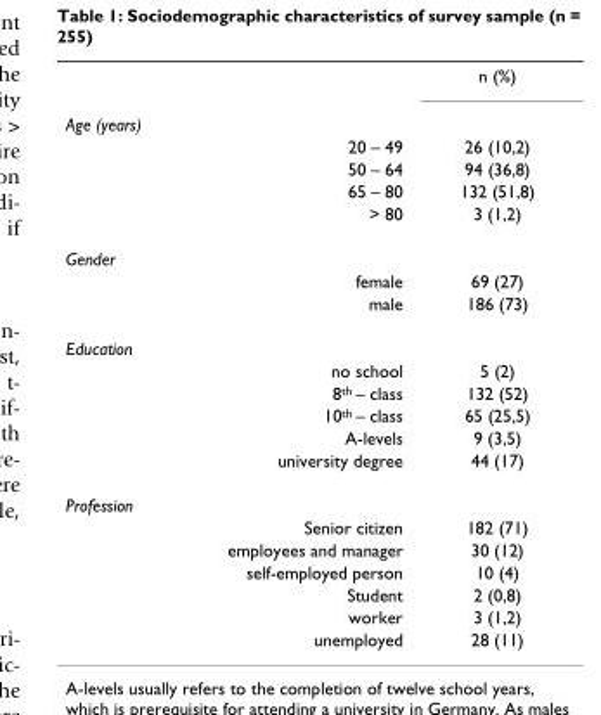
<table><thead><tr><td></td><td>n (%)</td></tr></thead><tbody><tr><td colspan="2">Age (years)</td></tr><tr><td>20 – 49</td><td>26 (10,2)</td></tr><tr><td>50 – 64</td><td>94 (36,8)</td></tr><tr><td>65 – 80</td><td>132 (51,8)</td></tr><tr><td>&gt; 80</td><td>3 (1,2)</td></tr><tr><td colspan="2">Gender</td></tr><tr><td>female</td><td>69 (27)</td></tr><tr><td>male</td><td>186 (73)</td></tr><tr><td colspan="2">Education</td></tr><tr><td>no school</td><td>5 (2)</td></tr><tr><td>8<sup>th</sup> – class</td><td>132 (52)</td></tr><tr><td>10<sup>th</sup> – class</td><td>65 (25,5)</td></tr><tr><td>A-levels</td><td>9 (3,5)</td></tr><tr><td>university degree</td><td>44 (17)</td></tr><tr><td colspan="2">Profession</td></tr><tr><td>Senior citizen</td><td>182 (71)</td></tr><tr><td>employees and manager</td><td>30 (12)</td></tr><tr><td>self-employed person</td><td>10 (4)</td></tr><tr><td>Student</td><td>2 (0,8)</td></tr><tr><td>worker</td><td>3 (1,2)</td></tr><tr><td>unemployed</td><td>28 (11)</td></tr></tbody></table>